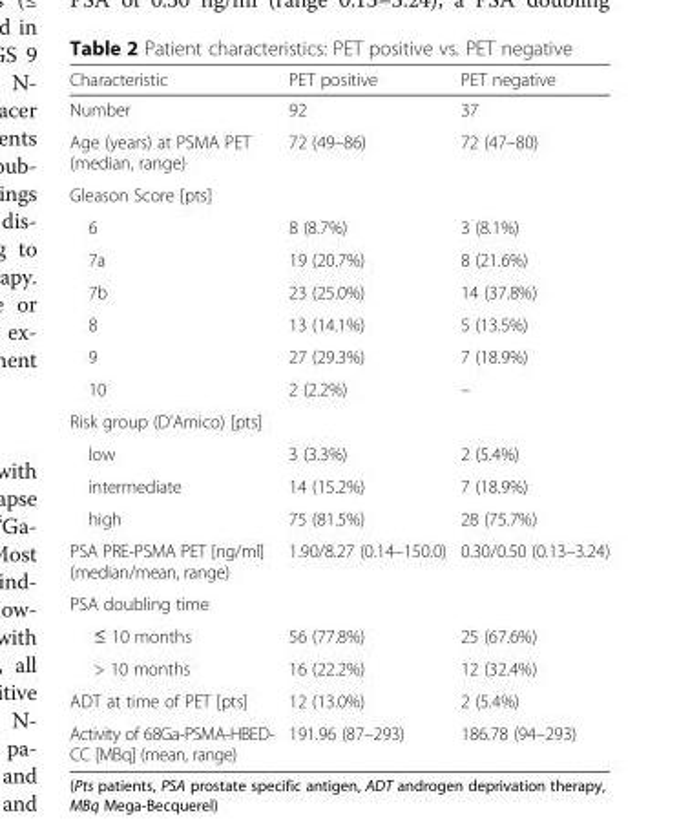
<table><thead><tr><td>Characteristic</td><td>PET positive</td><td>PET negative</td></tr></thead><tbody><tr><td>Number</td><td>92</td><td>37</td></tr><tr><td>Age (years) at PSMA PET (median, range)</td><td>72 (49–86)</td><td>72 (47–80)</td></tr><tr><td colspan="3">Gleason Score [pts]</td></tr><tr><td>6</td><td>8 (8.7%)</td><td>3 (8.1%)</td></tr><tr><td>7a</td><td>19 (20.7%)</td><td>8 (21.6%)</td></tr><tr><td>7b</td><td>23 (25.0%)</td><td>14 (37.8%)</td></tr><tr><td>8</td><td>13 (14.1%)</td><td>5 (13.5%)</td></tr><tr><td>9</td><td>27 (29.3%)</td><td>7 (18.9%)</td></tr><tr><td>10</td><td>2 (2.2%)</td><td>–</td></tr><tr><td colspan="3">Risk group (D’Amico) [pts]</td></tr><tr><td>low</td><td>3 (3.3%)</td><td>2 (5.4%)</td></tr><tr><td>intermediate</td><td>14 (15.2%)</td><td>7 (18.9%)</td></tr><tr><td>high</td><td>75 (81.5%)</td><td>28 (75.7%)</td></tr><tr><td>PSA PRE-PSMA PET [ng/ml] (median/mean, range)</td><td>1.90/8.27 (0.14–150.0)</td><td>0.30/0.50 (0.13–3.24)</td></tr><tr><td colspan="3">PSA doubling time</td></tr><tr><td>≤ 10 months</td><td>56 (77.8%)</td><td>25 (67.6%)</td></tr><tr><td>&gt; 10 months</td><td>16 (22.2%)</td><td>12 (32.4%)</td></tr><tr><td>ADT at time of PET [pts]</td><td>12 (13.0%)</td><td>2 (5.4%)</td></tr><tr><td>Activity of 68Ga-PSMA-HBED- CC [MBq] (mean, range)</td><td>191.96 (87–293)</td><td>186.78 (94–293)</td></tr></tbody></table>